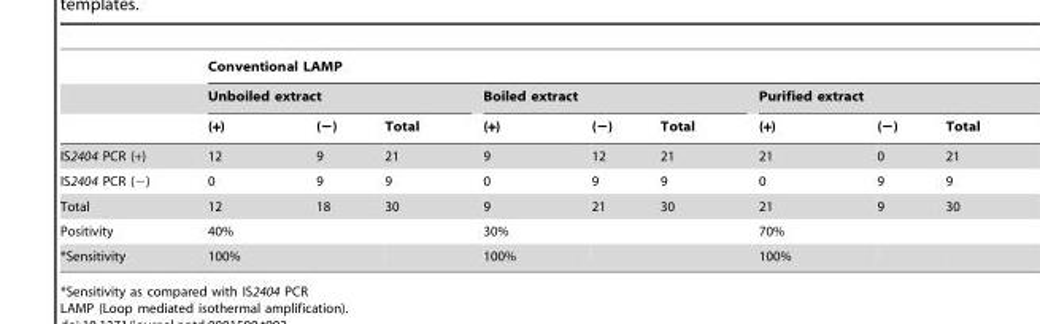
<table><thead><tr><td rowspan="3"></td><td colspan="9">Conventional LAMP</td></tr><tr><td colspan="3">Unboiled extract</td><td colspan="3">Boiled extract</td><td colspan="3">Purified extract</td></tr><tr><td>(+)</td><td>(−)</td><td>Total</td><td>(+)</td><td>(−)</td><td>Total</td><td>(+)</td><td>(−)</td><td>Total</td></tr></thead><tbody><tr><td>IS2404 PCR (+)</td><td>12</td><td>9</td><td>21</td><td>9</td><td>12</td><td>21</td><td>21</td><td>0</td><td>21</td></tr><tr><td>IS2404 PCR (−)</td><td>0</td><td>9</td><td>9</td><td>0</td><td>9</td><td>9</td><td>0</td><td>9</td><td>9</td></tr><tr><td>Total</td><td>12</td><td>18</td><td>30</td><td>9</td><td>21</td><td>30</td><td>21</td><td>9</td><td>30</td></tr><tr><td>Positivity</td><td>40%</td><td></td><td></td><td>30%</td><td></td><td></td><td>70%</td><td></td><td></td></tr><tr><td>*Sensitivity</td><td>100%</td><td></td><td></td><td>100%</td><td></td><td></td><td>100%</td><td></td><td></td></tr></tbody></table>